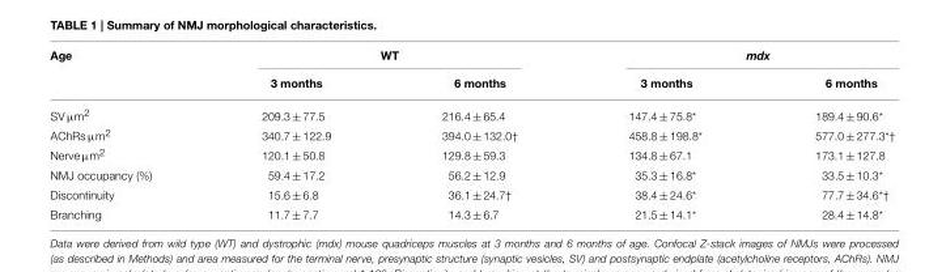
<table><thead><tr><td rowspan="2">Age</td><td colspan="2">WT</td><td colspan="2">mdx</td></tr><tr><td>3 months</td><td>6 months</td><td>3 months</td><td>6 months</td></tr></thead><tbody><tr><td>SV µm<sup>2</sup></td><td>209.3 ± 77.5</td><td>216.4 ± 65.4</td><td>147.4 ± 75.8*</td><td>189.4 ± 90.6*</td></tr><tr><td>AChRs µm<sup>2</sup></td><td>340.7 ± 122.9</td><td>394.0 ± 132.0<sup>†</sup></td><td>458.8 ± 198.8*</td><td>577.0 ± 277.3<sup>*†</sup></td></tr><tr><td>Nerve µm<sup>2</sup></td><td>120.1 ± 50.8</td><td>129.8 ± 59.3</td><td>134.8 ± 67.1</td><td>173.1 ± 127.8</td></tr><tr><td>NMJ occupancy (%)</td><td>59.4 ± 17.2</td><td>56.2 ± 12.9</td><td>35.3 ± 16.8*</td><td>33.5 ± 10.3*</td></tr><tr><td>Discontinuity</td><td>15.6 ± 6.8</td><td>36.1 ± 24.7<sup>†</sup></td><td>38.4 ± 24.6*</td><td>77.7 ± 34.6<sup>*†</sup></td></tr><tr><td>Branching</td><td>11.7 ± 7.7</td><td>14.3 ± 6.7</td><td>21.5 ± 14.1*</td><td>28.4 ± 14.8*</td></tr></tbody></table>